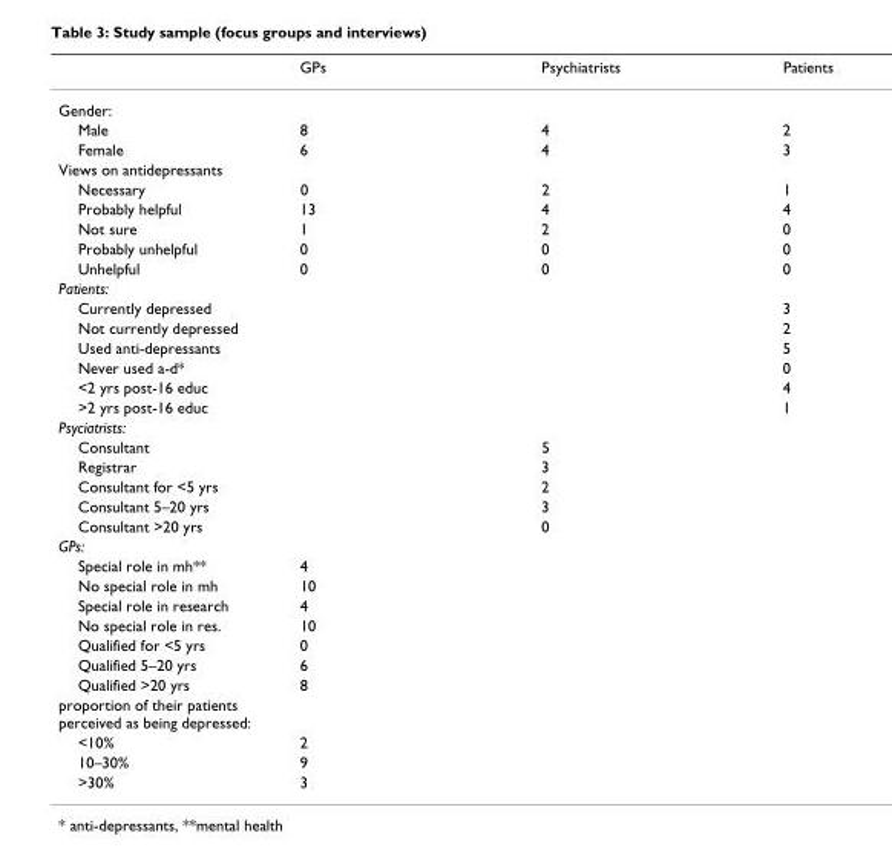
<table><thead><tr><td></td><td>GPs</td><td>Psychiatrists</td><td>Patients</td></tr></thead><tbody><tr><td colspan="4">Gender:</td></tr><tr><td>Male</td><td>8</td><td>4</td><td>2</td></tr><tr><td>Female</td><td>6</td><td>4</td><td>3</td></tr><tr><td colspan="4">Views on antidepressants</td></tr><tr><td>Necessary</td><td>0</td><td>2</td><td>1</td></tr><tr><td>Probably helpful</td><td>13</td><td>4</td><td>4</td></tr><tr><td>Not sure</td><td>1</td><td>2</td><td>0</td></tr><tr><td>Probably unhelpful</td><td>0</td><td>0</td><td>0</td></tr><tr><td>Unhelpful</td><td>0</td><td>0</td><td>0</td></tr><tr><td colspan="4">Patients:</td></tr><tr><td>Currently depressed</td><td></td><td></td><td>3</td></tr><tr><td>Not currently depressed</td><td></td><td></td><td>2</td></tr><tr><td>Used anti-depressants</td><td></td><td></td><td>5</td></tr><tr><td>Never used a-d*</td><td></td><td></td><td>0</td></tr><tr><td>&lt;2 yrs post-16 educ</td><td></td><td></td><td>4</td></tr><tr><td>&gt;2 yrs post-16 educ</td><td></td><td></td><td>1</td></tr><tr><td colspan="4">Psyciatrists:</td></tr><tr><td>Consultant</td><td></td><td>5</td><td></td></tr><tr><td>Registrar</td><td></td><td>3</td><td></td></tr><tr><td>Consultant for &lt;5 yrs</td><td></td><td>2</td><td></td></tr><tr><td>Consultant 5–20 yrs</td><td></td><td>3</td><td></td></tr><tr><td>Consultant &gt;20 yrs</td><td></td><td>0</td><td></td></tr><tr><td colspan="4">GPs:</td></tr><tr><td>Special role in mh**</td><td>4</td><td></td><td></td></tr><tr><td>No special role in mh</td><td>10</td><td></td><td></td></tr><tr><td>Special role in research</td><td>4</td><td></td><td></td></tr><tr><td>No special role in res.</td><td>10</td><td></td><td></td></tr><tr><td>Qualified for &lt;5 yrs</td><td>0</td><td></td><td></td></tr><tr><td>Qualified 5–20 yrs</td><td>6</td><td></td><td></td></tr><tr><td>Qualified &gt;20 yrs</td><td>8</td><td></td><td></td></tr><tr><td colspan="4">proportion of their patients perceived as being depressed:</td></tr><tr><td>&lt;10%</td><td>2</td><td></td><td></td></tr><tr><td>10–30%</td><td>9</td><td></td><td></td></tr><tr><td>&gt;30%</td><td>3</td><td></td><td></td></tr></tbody></table>